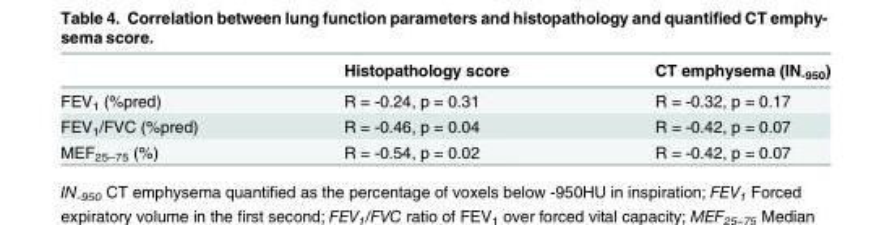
<table><thead><tr><td></td><td>Histopathology score</td><td>CT emphysema (IN<sub>-950</sub>)</td></tr></thead><tbody><tr><td>FEV<sub>1</sub> (%pred)</td><td>R = -0.24, p = 0.31</td><td>R = -0.32, p = 0.17</td></tr><tr><td>FEV<sub>1</sub>/FVC (%pred)</td><td>R = -0.46, p = 0.04</td><td>R = -0.42, p = 0.07</td></tr><tr><td>MEF<sub>25–75</sub> (%)</td><td>R = -0.54, p = 0.02</td><td>R = -0.42, p = 0.07</td></tr></tbody></table>